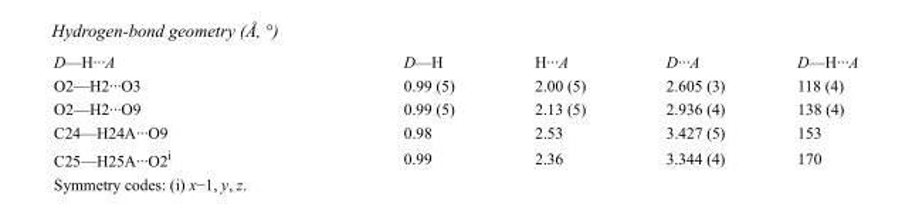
<table><tbody><tr><td>D—H···A</td><td>D—H</td><td>H···A</td><td>D···A</td><td>D—H···A</td></tr><tr><td>O2—H2···O3</td><td>0.99 (5)</td><td>2.00 (5)</td><td>2.605 (3)</td><td>118 (4)</td></tr><tr><td>O2—H2···O9</td><td>0.99 (5)</td><td>2.13 (5)</td><td>2.936 (4)</td><td>138 (4)</td></tr><tr><td>C24—H24A···O9</td><td>0.98</td><td>2.53</td><td>3.427 (5)</td><td>153</td></tr><tr><td>C25—H25A···O2<sup>i</sup></td><td>0.99</td><td>2.36</td><td>3.344 (4)</td><td>170</td></tr></tbody></table>